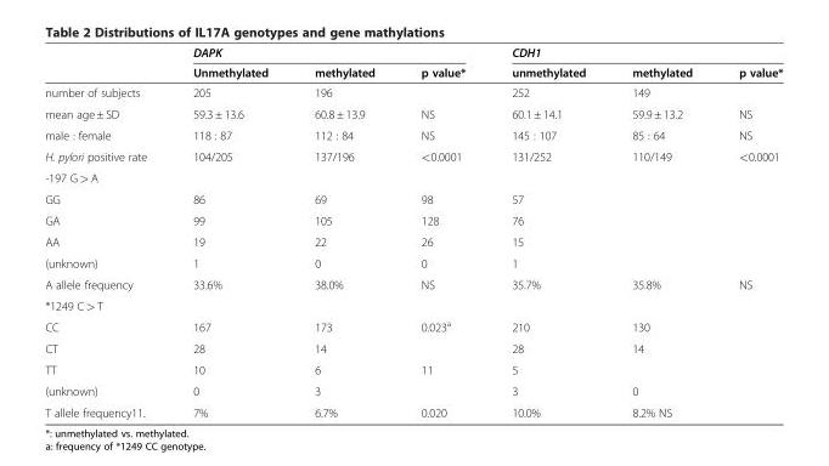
<table><thead><tr><td rowspan="2"></td><td colspan="3">DAPK</td><td colspan="3">CDH1</td></tr><tr><td>Unmethylated</td><td>methylated</td><td>p value*</td><td>unmethylated</td><td>methylated</td><td>p value*</td></tr></thead><tbody><tr><td>number of subjects</td><td>205</td><td>196</td><td></td><td>252</td><td>149</td><td></td></tr><tr><td>mean age ± SD</td><td>59.3 ± 13.6</td><td>60.8 ± 13.9</td><td>NS</td><td>60.1 ± 14.1</td><td>59.9 ± 13.2</td><td>NS</td></tr><tr><td>male : female</td><td>118 : 87</td><td>112 : 84</td><td>NS</td><td>145 : 107</td><td>85 : 64</td><td>NS</td></tr><tr><td>H. pylori positive rate</td><td>104/205</td><td>137/196</td><td>&lt;0.0001</td><td>131/252</td><td>110/149</td><td>&lt;0.0001</td></tr><tr><td colspan="7">-197 G &gt; A</td></tr><tr><td>GG</td><td>86</td><td>69</td><td>98</td><td>57</td><td></td><td></td></tr><tr><td>GA</td><td>99</td><td>105</td><td>128</td><td>76</td><td></td><td></td></tr><tr><td>AA</td><td>19</td><td>22</td><td>26</td><td>15</td><td></td><td></td></tr><tr><td>(unknown)</td><td>1</td><td>0</td><td>0</td><td>1</td><td></td><td></td></tr><tr><td>A allele frequency</td><td>33.6%</td><td>38.0%</td><td>NS</td><td>35.7%</td><td>35.8%</td><td>NS</td></tr><tr><td colspan="7">*1249 C &gt; T</td></tr><tr><td>CC</td><td>167</td><td>173</td><td>0.023<sup>a</sup></td><td>210</td><td>130</td><td></td></tr><tr><td>CT</td><td>28</td><td>14</td><td></td><td>28</td><td>14</td><td></td></tr><tr><td>TT</td><td>10</td><td>6</td><td>11</td><td>5</td><td></td><td></td></tr><tr><td>(unknown)</td><td>0</td><td>3</td><td></td><td>3</td><td>0</td><td></td></tr><tr><td>T allele frequency11.</td><td>7%</td><td>6.7%</td><td>0.020</td><td>10.0%</td><td>8.2% NS</td><td></td></tr></tbody></table>